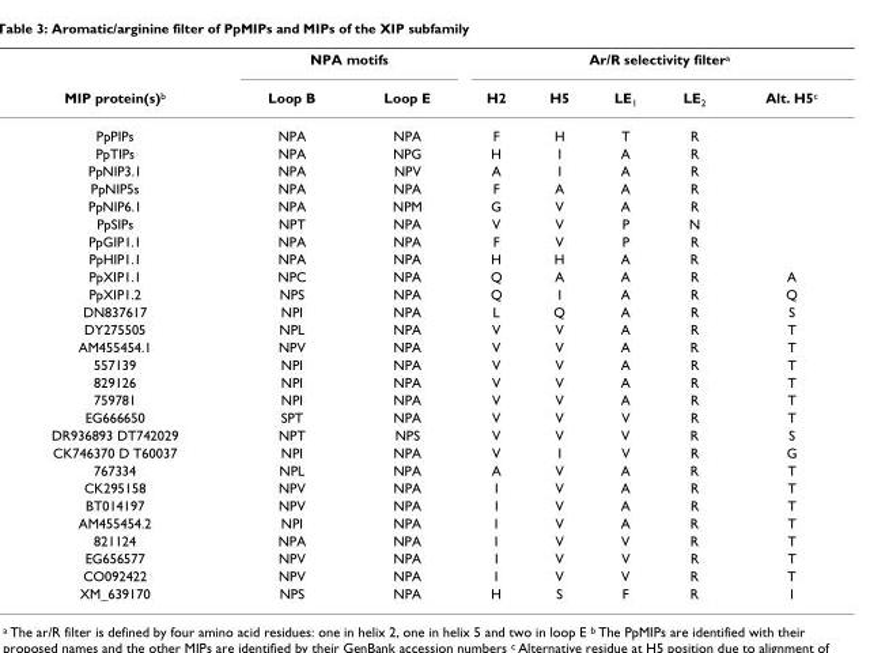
<table><thead><tr><td rowspan="2">MIP protein(s)<sup>b</sup></td><td colspan="2">NPA motifs</td><td colspan="5">Ar/R selectivity filter<sup>a</sup></td></tr><tr><td>Loop B</td><td>Loop E</td><td>H2</td><td>H5</td><td>LE<sub>1</sub></td><td>LE<sub>2</sub></td><td>Alt. H5<sup>c</sup></td></tr></thead><tbody><tr><td>PpPIPs</td><td>NPA</td><td>NPA</td><td>F</td><td>H</td><td>T</td><td>R</td><td></td></tr><tr><td>PpTIPs</td><td>NPA</td><td>NPG</td><td>H</td><td>I</td><td>A</td><td>R</td><td></td></tr><tr><td>PpNIP3.1</td><td>NPA</td><td>NPV</td><td>A</td><td>I</td><td>A</td><td>R</td><td></td></tr><tr><td>PpNIP5s</td><td>NPA</td><td>NPA</td><td>F</td><td>A</td><td>A</td><td>R</td><td></td></tr><tr><td>PpNIP6.1</td><td>NPA</td><td>NPM</td><td>G</td><td>V</td><td>A</td><td>R</td><td></td></tr><tr><td>PpSIPs</td><td>NPT</td><td>NPA</td><td>V</td><td>V</td><td>P</td><td>N</td><td></td></tr><tr><td>PpGIP1.1</td><td>NPA</td><td>NPA</td><td>F</td><td>V</td><td>P</td><td>R</td><td></td></tr><tr><td>PpHIP1.1</td><td>NPA</td><td>NPA</td><td>H</td><td>H</td><td>A</td><td>R</td><td></td></tr><tr><td>PpXIP1.1</td><td>NPC</td><td>NPA</td><td>Q</td><td>A</td><td>A</td><td>R</td><td>A</td></tr><tr><td>PpXIP1.2</td><td>NPS</td><td>NPA</td><td>Q</td><td>I</td><td>A</td><td>R</td><td>Q</td></tr><tr><td>DN837617</td><td>NPI</td><td>NPA</td><td>L</td><td>Q</td><td>A</td><td>R</td><td>S</td></tr><tr><td>DY275505</td><td>NPL</td><td>NPA</td><td>V</td><td>V</td><td>A</td><td>R</td><td>T</td></tr><tr><td>AM455454.1</td><td>NPV</td><td>NPA</td><td>V</td><td>V</td><td>A</td><td>R</td><td>T</td></tr><tr><td>557139</td><td>NPI</td><td>NPA</td><td>V</td><td>V</td><td>A</td><td>R</td><td>T</td></tr><tr><td>829126</td><td>NPI</td><td>NPA</td><td>V</td><td>V</td><td>A</td><td>R</td><td>T</td></tr><tr><td>759781</td><td>NPI</td><td>NPA</td><td>V</td><td>V</td><td>A</td><td>R</td><td>T</td></tr><tr><td>EG666650</td><td>SPT</td><td>NPA</td><td>V</td><td>V</td><td>V</td><td>R</td><td>T</td></tr><tr><td>DR936893 DT742029</td><td>NPT</td><td>NPS</td><td>V</td><td>V</td><td>V</td><td>R</td><td>S</td></tr><tr><td>CK746370 D T60037</td><td>NPI</td><td>NPA</td><td>V</td><td>I</td><td>V</td><td>R</td><td>G</td></tr><tr><td>767334</td><td>NPL</td><td>NPA</td><td>A</td><td>V</td><td>A</td><td>R</td><td>T</td></tr><tr><td>CK295158</td><td>NPV</td><td>NPA</td><td>I</td><td>V</td><td>A</td><td>R</td><td>T</td></tr><tr><td>BT014197</td><td>NPV</td><td>NPA</td><td>I</td><td>V</td><td>A</td><td>R</td><td>T</td></tr><tr><td>AM455454.2</td><td>NPI</td><td>NPA</td><td>I</td><td>V</td><td>A</td><td>R</td><td>T</td></tr><tr><td>821124</td><td>NPA</td><td>NPA</td><td>I</td><td>V</td><td>V</td><td>R</td><td>T</td></tr><tr><td>EG656577</td><td>NPV</td><td>NPA</td><td>I</td><td>V</td><td>V</td><td>R</td><td>T</td></tr><tr><td>CO092422</td><td>NPV</td><td>NPA</td><td>I</td><td>V</td><td>V</td><td>R</td><td>T</td></tr><tr><td>XM_639170</td><td>NPS</td><td>NPA</td><td>H</td><td>S</td><td>F</td><td>R</td><td>I</td></tr></tbody></table>